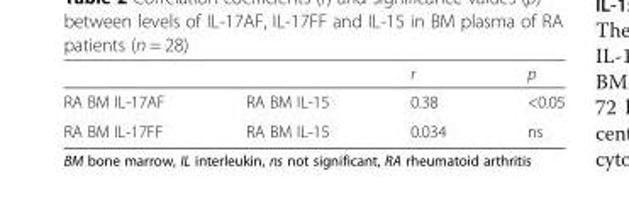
<table><thead><tr><td></td><td></td><td>r</td><td>p</td></tr></thead><tbody><tr><td>RA BM IL-17AF</td><td>RA BM IL-15</td><td>0.38</td><td>&lt;0.05</td></tr><tr><td>RA BM IL-17FF</td><td>RA BM IL-15</td><td>0.034</td><td>ns</td></tr></tbody></table>